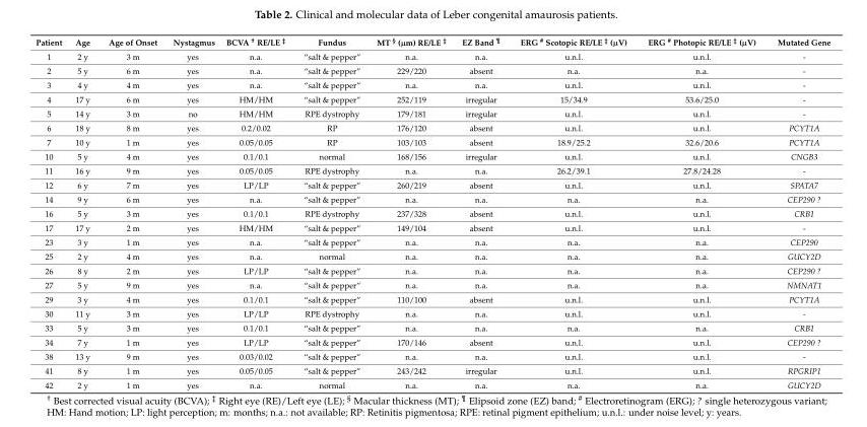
<table><thead><tr><td>Patient</td><td>Age</td><td>Age of Onset</td><td>Nystagmus</td><td>BCVA <sup>†</sup> RE/LE <sup>‡</sup></td><td>Fundus</td><td>MT <sup>§</sup> (µm) RE/LE <sup>‡</sup></td><td>EZ Band <sup>¶</sup></td><td>ERG <sup>#</sup> Scotopic RE/LE <sup>‡</sup> (µV)</td><td>ERG <sup>#</sup> Photopic RE/LE <sup>‡</sup> (µV)</td><td>Mutated Gene</td></tr></thead><tbody><tr><td>1</td><td>2 y</td><td>3 m</td><td>yes</td><td>n.a.</td><td>“salt &amp; pepper”</td><td>n.a.</td><td>n.a.</td><td>u.n.l.</td><td>u.n.l.</td><td>-</td></tr><tr><td>2</td><td>5 y</td><td>6 m</td><td>yes</td><td>n.a.</td><td>“salt &amp; pepper”</td><td>229/220</td><td>absent</td><td>n.a.</td><td>n.a.</td><td>-</td></tr><tr><td>3</td><td>4 y</td><td>4 m</td><td>yes</td><td>n.a.</td><td>“salt &amp; pepper”</td><td>n.a.</td><td>n.a.</td><td>u.n.l.</td><td>u.n.l.</td><td>-</td></tr><tr><td>4</td><td>17 y</td><td>6 m</td><td>yes</td><td>HM/HM</td><td>“salt &amp; pepper”</td><td>252/119</td><td>irregular</td><td>15/34.9</td><td>53.6/25.0</td><td>-</td></tr><tr><td>5</td><td>14 y</td><td>3 m</td><td>no</td><td>HM/HM</td><td>RPE dystrophy</td><td>179/181</td><td>irregular</td><td>u.n.l.</td><td>u.n.l.</td><td>-</td></tr><tr><td>6</td><td>18 y</td><td>8 m</td><td>yes</td><td>0.2/0.02</td><td>RP</td><td>176/120</td><td>absent</td><td>u.n.l.</td><td>u.n.l.</td><td>PCYT1A</td></tr><tr><td>7</td><td>10 y</td><td>1 m</td><td>yes</td><td>0.05/0.05</td><td>RP</td><td>103/103</td><td>absent</td><td>18.9/25.2</td><td>32.6/20.6</td><td>PCYT1A</td></tr><tr><td>10</td><td>5 y</td><td>4 m</td><td>yes</td><td>0.1/0.1</td><td>normal</td><td>168/156</td><td>irregular</td><td>u.n.l.</td><td>u.n.l.</td><td>CNGB3</td></tr><tr><td>11</td><td>16 y</td><td>9 m</td><td>yes</td><td>0.05/0.05</td><td>RPE dystrophy</td><td>n.a.</td><td>n.a.</td><td>26.2/39.1</td><td>27.8/24.28</td><td>-</td></tr><tr><td>12</td><td>6 y</td><td>7 m</td><td>yes</td><td>LP/LP</td><td>“salt &amp; pepper”</td><td>260/219</td><td>absent</td><td>u.n.l.</td><td>u.n.l.</td><td>SPATA7</td></tr><tr><td>14</td><td>9 y</td><td>6 m</td><td>yes</td><td>n.a.</td><td>“salt &amp; pepper”</td><td>n.a.</td><td>n.a.</td><td>n.a.</td><td>n.a.</td><td>CEP290 ?</td></tr><tr><td>16</td><td>5 y</td><td>3 m</td><td>yes</td><td>0.1/0.1</td><td>RPE dystrophy</td><td>237/328</td><td>absent</td><td>u.n.l.</td><td>u.n.l.</td><td>CRB1</td></tr><tr><td>17</td><td>17 y</td><td>2 m</td><td>yes</td><td>HM/HM</td><td>“salt &amp; pepper”</td><td>149/104</td><td>absent</td><td>u.n.l.</td><td>u.n.l.</td><td>-</td></tr><tr><td>23</td><td>3 y</td><td>1 m</td><td>yes</td><td>n.a.</td><td>“salt &amp; pepper”</td><td>n.a.</td><td>n.a.</td><td>n.a.</td><td>n.a.</td><td>CEP290</td></tr><tr><td>25</td><td>2 y</td><td>4 m</td><td>yes</td><td>n.a.</td><td>normal</td><td>n.a.</td><td>n.a.</td><td>n.a.</td><td>n.a.</td><td>GUCY2D</td></tr><tr><td>26</td><td>8 y</td><td>2 m</td><td>yes</td><td>LP/LP</td><td>“salt &amp; pepper”</td><td>n.a.</td><td>n.a.</td><td>n.a.</td><td>n.a.</td><td>CEP290 ?</td></tr><tr><td>27</td><td>5 y</td><td>9 m</td><td>yes</td><td>n.a.</td><td>“salt &amp; pepper”</td><td>n.a.</td><td>n.a.</td><td>n.a.</td><td>n.a.</td><td>NMNAT1</td></tr><tr><td>29</td><td>3 y</td><td>4 m</td><td>yes</td><td>0.1/0.1</td><td>“salt &amp; pepper”</td><td>110/100</td><td>absent</td><td>u.n.l.</td><td>u.n.l.</td><td>PCYT1A</td></tr><tr><td>30</td><td>11 y</td><td>3 m</td><td>yes</td><td>LP/LP</td><td>RPE dystrophy</td><td>n.a.</td><td>n.a.</td><td>u.n.l.</td><td>u.n.l.</td><td>-</td></tr><tr><td>33</td><td>5 y</td><td>3 m</td><td>yes</td><td>0.1/0.1</td><td>“salt &amp; pepper”</td><td>n.a.</td><td>n.a.</td><td>n.a.</td><td>n.a.</td><td>CRB1</td></tr><tr><td>34</td><td>7 y</td><td>1 m</td><td>yes</td><td>LP/LP</td><td>“salt &amp; pepper”</td><td>170/146</td><td>absent</td><td>u.n.l.</td><td>u.n.l.</td><td>CEP290 ?</td></tr><tr><td>38</td><td>13 y</td><td>9 m</td><td>yes</td><td>0.03/0.02</td><td>“salt &amp; pepper”</td><td>n.a.</td><td>n.a.</td><td>u.n.l.</td><td>u.n.l.</td><td>-</td></tr><tr><td>41</td><td>8 y</td><td>1 m</td><td>yes</td><td>0.05/0.05</td><td>“salt &amp; pepper”</td><td>243/242</td><td>irregular</td><td>u.n.l.</td><td>u.n.l.</td><td>RPGRIP1</td></tr><tr><td>42</td><td>2 y</td><td>1 m</td><td>yes</td><td>n.a.</td><td>normal</td><td>n.a.</td><td>n.a.</td><td>n.a.</td><td>n.a.</td><td>GUCY2D</td></tr></tbody></table>